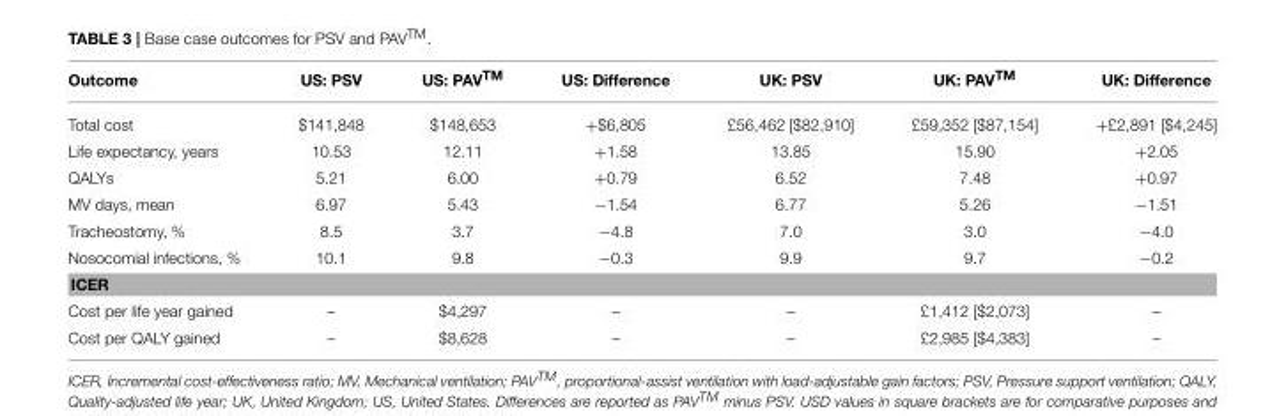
<table><thead><tr><td>Outcome</td><td>US: PSV</td><td>US: PAVTM</td><td>US: Difference</td><td>UK: PSV</td><td>UK: PAVTM</td><td>UK: Difference</td></tr></thead><tbody><tr><td>Total cost</td><td>$141,848</td><td>$148,653</td><td>+$6,805</td><td>£56,462 [$82,910]</td><td>£59,352 [$87,154]</td><td>+£2,891 [$4,245]</td></tr><tr><td>Life expectancy, years</td><td>10.53</td><td>12.11</td><td>+1.58</td><td>13.85</td><td>15.90</td><td>+2.05</td></tr><tr><td>QALYs</td><td>5.21</td><td>6.00</td><td>+0.79</td><td>6.52</td><td>7.48</td><td>+0.97</td></tr><tr><td>MV days, mean</td><td>6.97</td><td>5.43</td><td>−1.54</td><td>6.77</td><td>5.26</td><td>−1.51</td></tr><tr><td>Tracheostomy, %</td><td>8.5</td><td>3.7</td><td>−4.8</td><td>7.0</td><td>3.0</td><td>−4.0</td></tr><tr><td>Nosocomial infections, %</td><td>10.1</td><td>9.8</td><td>−0.3</td><td>9.9</td><td>9.7</td><td>−0.2</td></tr><tr><td colspan="7">ICER</td></tr><tr><td>Cost per life year gained</td><td>–</td><td>$4,297</td><td>–</td><td>–</td><td>£1,412 [$2,073]</td><td>–</td></tr><tr><td>Cost per QALY gained</td><td>–</td><td>$8,628</td><td>–</td><td>–</td><td>£2,985 [$4,383]</td><td>–</td></tr></tbody></table>